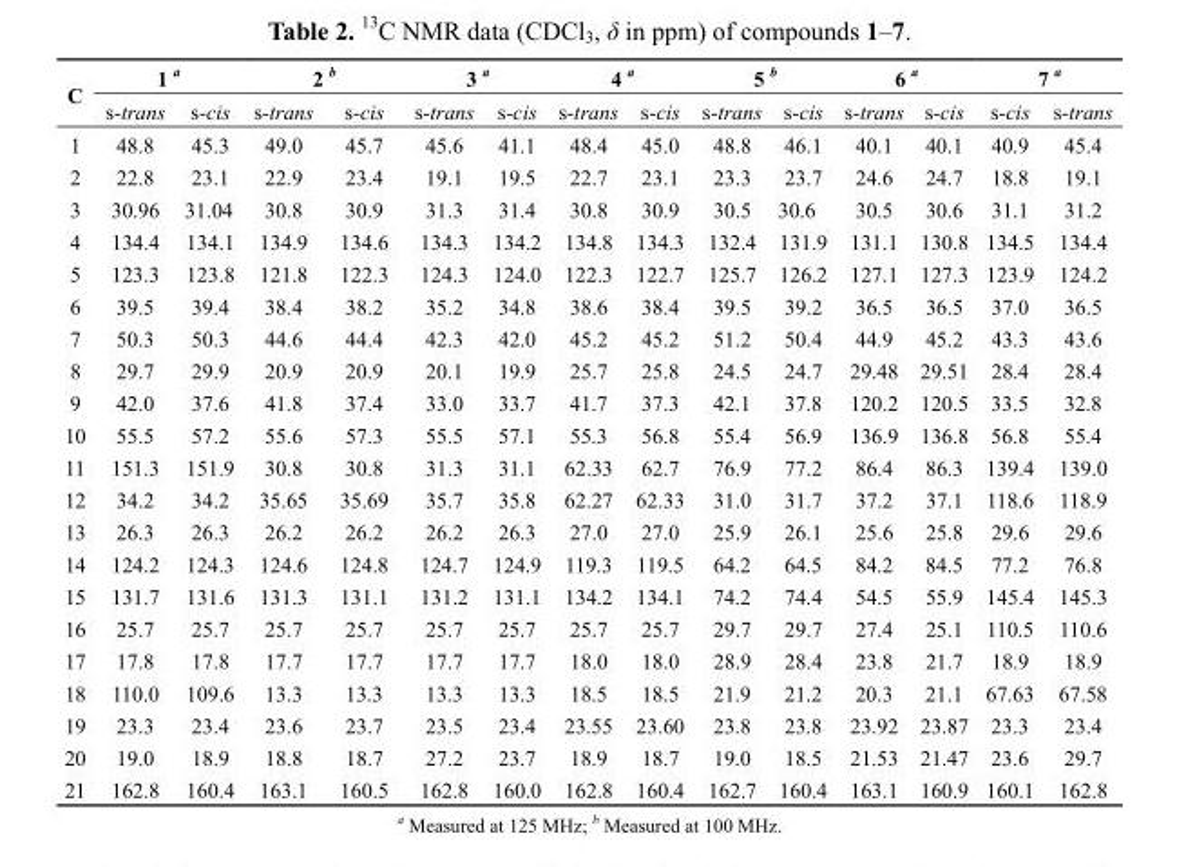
<table><thead><tr><td rowspan="2">C</td><td colspan="2">1 <sup>a</sup></td><td colspan="2">2 <sup>b</sup></td><td colspan="2">3 <sup>a</sup></td><td colspan="2">4 <sup>a</sup></td><td colspan="2">5 <sup>b</sup></td><td colspan="2">6 <sup>a</sup></td><td colspan="2">7 <sup>a</sup></td></tr><tr><td>s-trans</td><td>s-cis</td><td>s-trans</td><td>s-cis</td><td>s-trans</td><td>s-cis</td><td>s-trans</td><td>s-cis</td><td>s-trans</td><td>s-cis</td><td>s-trans</td><td>s-cis</td><td>s-cis</td><td>s-trans</td></tr></thead><tbody><tr><td>1</td><td>48.8</td><td>45.3</td><td>49.0</td><td>45.7</td><td>45.6</td><td>41.1</td><td>48.4</td><td>45.0</td><td>48.8</td><td>46.1</td><td>40.1</td><td>40.1</td><td>40.9</td><td>45.4</td></tr><tr><td>2</td><td>22.8</td><td>23.1</td><td>22.9</td><td>23.4</td><td>19.1</td><td>19.5</td><td>22.7</td><td>23.1</td><td>23.3</td><td>23.7</td><td>24.6</td><td>24.7</td><td>18.8</td><td>19.1</td></tr><tr><td>3</td><td>30.96</td><td>31.04</td><td>30.8</td><td>30.9</td><td>31.3</td><td>31.4</td><td>30.8</td><td>30.9</td><td>30.5</td><td>30.6</td><td>30.5</td><td>30.6</td><td>31.1</td><td>31.2</td></tr><tr><td>4</td><td>134.4</td><td>134.1</td><td>134.9</td><td>134.6</td><td>134.3</td><td>134.2</td><td>134.8</td><td>134.3</td><td>132.4</td><td>131.9</td><td>131.1</td><td>130.8</td><td>134.5</td><td>134.4</td></tr><tr><td>5</td><td>123.3</td><td>123.8</td><td>121.8</td><td>122.3</td><td>124.3</td><td>124.0</td><td>122.3</td><td>122.7</td><td>125.7</td><td>126.2</td><td>127.1</td><td>127.3</td><td>123.9</td><td>124.2</td></tr><tr><td>6</td><td>39.5</td><td>39.4</td><td>38.4</td><td>38.2</td><td>35.2</td><td>34.8</td><td>38.6</td><td>38.4</td><td>39.5</td><td>39.2</td><td>36.5</td><td>36.5</td><td>37.0</td><td>36.5</td></tr><tr><td>7</td><td>50.3</td><td>50.3</td><td>44.6</td><td>44.4</td><td>42.3</td><td>42.0</td><td>45.2</td><td>45.2</td><td>51.2</td><td>50.4</td><td>44.9</td><td>45.2</td><td>43.3</td><td>43.6</td></tr><tr><td>8</td><td>29.7</td><td>29.9</td><td>20.9</td><td>20.9</td><td>20.1</td><td>19.9</td><td>25.7</td><td>25.8</td><td>24.5</td><td>24.7</td><td>29.48</td><td>29.51</td><td>28.4</td><td>28.4</td></tr><tr><td>9</td><td>42.0</td><td>37.6</td><td>41.8</td><td>37.4</td><td>33.0</td><td>33.7</td><td>41.7</td><td>37.3</td><td>42.1</td><td>37.8</td><td>120.2</td><td>120.5</td><td>33.5</td><td>32.8</td></tr><tr><td>10</td><td>55.5</td><td>57.2</td><td>55.6</td><td>57.3</td><td>55.5</td><td>57.1</td><td>55.3</td><td>56.8</td><td>55.4</td><td>56.9</td><td>136.9</td><td>136.8</td><td>56.8</td><td>55.4</td></tr><tr><td>11</td><td>151.3</td><td>151.9</td><td>30.8</td><td>30.8</td><td>31.3</td><td>31.1</td><td>62.33</td><td>62.7</td><td>76.9</td><td>77.2</td><td>86.4</td><td>86.3</td><td>139.4</td><td>139.0</td></tr><tr><td>12</td><td>34.2</td><td>34.2</td><td>35.65</td><td>35.69</td><td>35.7</td><td>35.8</td><td>62.27</td><td>62.33</td><td>31.0</td><td>31.7</td><td>37.2</td><td>37.1</td><td>118.6</td><td>118.9</td></tr><tr><td>13</td><td>26.3</td><td>26.3</td><td>26.2</td><td>26.2</td><td>26.2</td><td>26.3</td><td>27.0</td><td>27.0</td><td>25.9</td><td>26.1</td><td>25.6</td><td>25.8</td><td>29.6</td><td>29.6</td></tr><tr><td>14</td><td>124.2</td><td>124.3</td><td>124.6</td><td>124.8</td><td>124.7</td><td>124.9</td><td>119.3</td><td>119.5</td><td>64.2</td><td>64.5</td><td>84.2</td><td>84.5</td><td>77.2</td><td>76.8</td></tr><tr><td>15</td><td>131.7</td><td>131.6</td><td>131.3</td><td>131.1</td><td>131.2</td><td>131.1</td><td>134.2</td><td>134.1</td><td>74.2</td><td>74.4</td><td>54.5</td><td>55.9</td><td>145.4</td><td>145.3</td></tr><tr><td>16</td><td>25.7</td><td>25.7</td><td>25.7</td><td>25.7</td><td>25.7</td><td>25.7</td><td>25.7</td><td>25.7</td><td>29.7</td><td>29.7</td><td>27.4</td><td>25.1</td><td>110.5</td><td>110.6</td></tr><tr><td>17</td><td>17.8</td><td>17.8</td><td>17.7</td><td>17.7</td><td>17.7</td><td>17.7</td><td>18.0</td><td>18.0</td><td>28.9</td><td>28.4</td><td>23.8</td><td>21.7</td><td>18.9</td><td>18.9</td></tr><tr><td>18</td><td>110.0</td><td>109.6</td><td>13.3</td><td>13.3</td><td>13.3</td><td>13.3</td><td>18.5</td><td>18.5</td><td>21.9</td><td>21.2</td><td>20.3</td><td>21.1</td><td>67.63</td><td>67.58</td></tr><tr><td>19</td><td>23.3</td><td>23.4</td><td>23.6</td><td>23.7</td><td>23.5</td><td>23.4</td><td>23.55</td><td>23.60</td><td>23.8</td><td>23.8</td><td>23.92</td><td>23.87</td><td>23.3</td><td>23.4</td></tr><tr><td>20</td><td>19.0</td><td>18.9</td><td>18.8</td><td>18.7</td><td>27.2</td><td>23.7</td><td>18.9</td><td>18.7</td><td>19.0</td><td>18.5</td><td>21.53</td><td>21.47</td><td>23.6</td><td>29.7</td></tr><tr><td>21</td><td>162.8</td><td>160.4</td><td>163.1</td><td>160.5</td><td>162.8</td><td>160.0</td><td>162.8</td><td>160.4</td><td>162.7</td><td>160.4</td><td>163.1</td><td>160.9</td><td>160.1</td><td>162.8</td></tr></tbody></table>